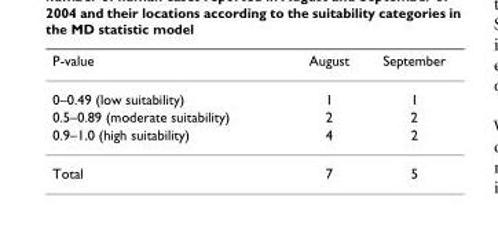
<table><thead><tr><td>P-value</td><td>August</td><td>September</td></tr></thead><tbody><tr><td>0–0.49 (low suitability)</td><td>1</td><td>1</td></tr><tr><td>0.5–0.89 (moderate suitability)</td><td>2</td><td>2</td></tr><tr><td>0.9–1.0 (high suitability)</td><td>4</td><td>2</td></tr><tr><td>Total</td><td>7</td><td>5</td></tr></tbody></table>